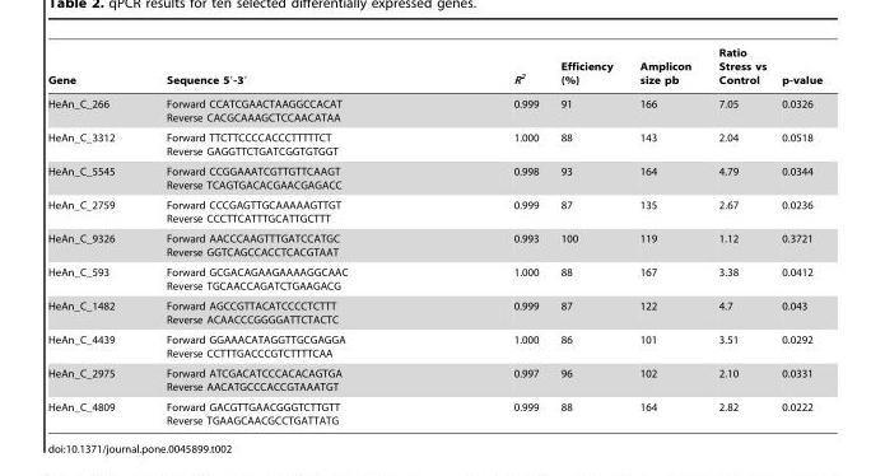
<table><thead><tr><td>Gene</td><td>Sequence 5′-3′</td><td>R<sup>2</sup></td><td>Efficiency (%)</td><td>Amplicon size pb</td><td>Ratio Stress vs Control</td><td>p-value</td></tr></thead><tbody><tr><td>HeAn_C_266</td><td>Forward CCATCGAACTAAGGCCACAT Reverse CACGCAAAGCTCCAACATAA</td><td>0.999</td><td>91</td><td>166</td><td>7.05</td><td>0.0326</td></tr><tr><td>HeAn_C_3312</td><td>Forward TTCTTCCCCACCCTTTTTCT Reverse GAGGTTCTGATCGGTGTGGT</td><td>1.000</td><td>88</td><td>143</td><td>2.04</td><td>0.0518</td></tr><tr><td>HeAn_C_5545</td><td>Forward CCGGAAATCGTTGTTCAAGT Reverse TCAGTGACACGAACGAGACC</td><td>0.998</td><td>93</td><td>164</td><td>4.79</td><td>0.0344</td></tr><tr><td>HeAn_C_2759</td><td>Forward CCCGAGTTGCAAAAAGTTGT Reverse CCCTTCATTTGCATTGCTTT</td><td>0.999</td><td>87</td><td>135</td><td>2.67</td><td>0.0236</td></tr><tr><td>HeAn_C_9326</td><td>Forward AACCCAAGTTTGATCCATGC Reverse GGTCAGCCACCTCACGTAAT</td><td>0.993</td><td>100</td><td>119</td><td>1.12</td><td>0.3721</td></tr><tr><td>HeAn_C_593</td><td>Forward GCGACAGAAGAAAAGGCAAC Reverse TGCAACCAGATCTGAAGACG</td><td>1.000</td><td>88</td><td>167</td><td>3.38</td><td>0.0412</td></tr><tr><td>HeAn_C_1482</td><td>Forward AGCCGTTACATCCCCTCTTT Reverse ACAACCCGGGGATTCTACTC</td><td>0.999</td><td>87</td><td>122</td><td>4.7</td><td>0.043</td></tr><tr><td>HeAn_C_4439</td><td>Forward GGAAACATAGGTTGCGAGGA Reverse CCTTTGACCCGTCTTTTCAA</td><td>1.000</td><td>86</td><td>101</td><td>3.51</td><td>0.0292</td></tr><tr><td>HeAn_C_2975</td><td>Forward ATCGACATCCCACACAGTGA Reverse AACATGCCCACCGTAAATGT</td><td>0.997</td><td>96</td><td>102</td><td>2.10</td><td>0.0331</td></tr><tr><td>HeAn_C_4809</td><td>Forward GACGTTGAACGGGTCTTGTT Reverse TGAAGCAACGCCTGATTATG</td><td>0.999</td><td>88</td><td>164</td><td>2.82</td><td>0.0222</td></tr></tbody></table>